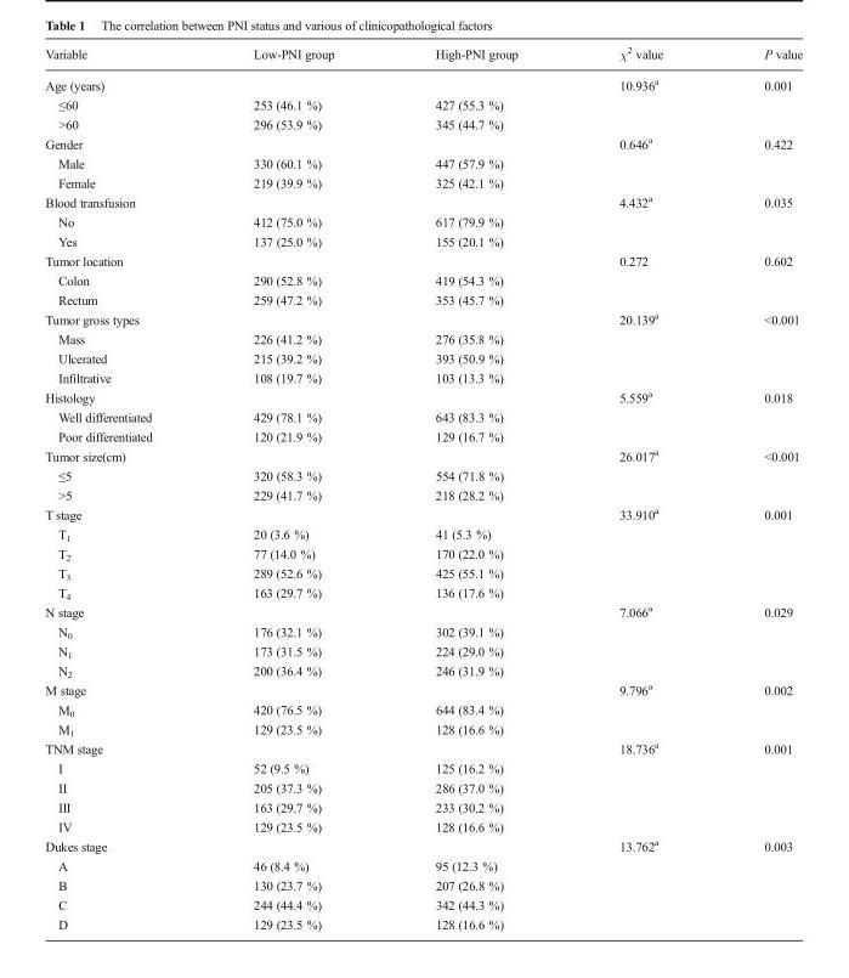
<table><thead><tr><td>Variable</td><td>Low-PNI group</td><td>High-PNI group</td><td>χ<sup>2</sup> value</td><td>P value</td></tr></thead><tbody><tr><td>Age (years)</td><td></td><td></td><td>10.936<sup>a</sup></td><td>0.001</td></tr><tr><td>≤60</td><td>253 (46.1 %)</td><td>427 (55.3 %)</td><td></td><td></td></tr><tr><td>&gt;60</td><td>296 (53.9 %)</td><td>345 (44.7 %)</td><td></td><td></td></tr><tr><td>Gender</td><td></td><td></td><td>0.646<sup>a</sup></td><td>0.422</td></tr><tr><td>Male</td><td>330 (60.1 %)</td><td>447 (57.9 %)</td><td></td><td></td></tr><tr><td>Female</td><td>219 (39.9 %)</td><td>325 (42.1 %)</td><td></td><td></td></tr><tr><td>Blood transfusion</td><td></td><td></td><td>4.432<sup>a</sup></td><td>0.035</td></tr><tr><td>No</td><td>412 (75.0 %)</td><td>617 (79.9 %)</td><td></td><td></td></tr><tr><td>Yes</td><td>137 (25.0 %)</td><td>155 (20.1 %)</td><td></td><td></td></tr><tr><td>Tumor location</td><td></td><td></td><td>0.272</td><td>0.602</td></tr><tr><td>Colon</td><td>290 (52.8 %)</td><td>419 (54.3 %)</td><td></td><td></td></tr><tr><td>Rectum</td><td>259 (47.2 %)</td><td>353 (45.7 %)</td><td></td><td></td></tr><tr><td>Tumor gross types</td><td></td><td></td><td>20.139<sup>a</sup></td><td>&lt;0.001</td></tr><tr><td>Mass</td><td>226 (41.2 %)</td><td>276 (35.8 %)</td><td></td><td></td></tr><tr><td>Ulcerated</td><td>215 (39.2 %)</td><td>393 (50.9 %)</td><td></td><td></td></tr><tr><td>Infiltrative</td><td>108 (19.7 %)</td><td>103 (13.3 %)</td><td></td><td></td></tr><tr><td>Histology</td><td></td><td></td><td>5.559<sup>a</sup></td><td>0.018</td></tr><tr><td>Well differentiated</td><td>429 (78.1 %)</td><td>643 (83.3 %)</td><td></td><td></td></tr><tr><td>Poor differentiated</td><td>120 (21.9 %)</td><td>129 (16.7 %)</td><td></td><td></td></tr><tr><td>Tumor size(cm)</td><td></td><td></td><td>26.017<sup>a</sup></td><td>&lt;0.001</td></tr><tr><td>≤5</td><td>320 (58.3 %)</td><td>554 (71.8 %)</td><td></td><td></td></tr><tr><td>&gt;5</td><td>229 (41.7 %)</td><td>218 (28.2 %)</td><td></td><td></td></tr><tr><td>T stage</td><td></td><td></td><td>33.910<sup>a</sup></td><td>0.001</td></tr><tr><td>T<sub>1</sub></td><td>20 (3.6 %)</td><td>41 (5.3 %)</td><td></td><td></td></tr><tr><td>T<sub>2</sub></td><td>77 (14.0 %)</td><td>170 (22.0 %)</td><td></td><td></td></tr><tr><td>T<sub>3</sub></td><td>289 (52.6 %)</td><td>425 (55.1 %)</td><td></td><td></td></tr><tr><td>T<sub>4</sub></td><td>163 (29.7 %)</td><td>136 (17.6 %)</td><td></td><td></td></tr><tr><td>N stage</td><td></td><td></td><td>7.066<sup>a</sup></td><td>0.029</td></tr><tr><td>N<sub>0</sub></td><td>176 (32.1 %)</td><td>302 (39.1 %)</td><td></td><td></td></tr><tr><td>N<sub>1</sub></td><td>173 (31.5 %)</td><td>224 (29.0 %)</td><td></td><td></td></tr><tr><td>N<sub>2</sub></td><td>200 (36.4 %)</td><td>246 (31.9 %)</td><td></td><td></td></tr><tr><td>M stage</td><td></td><td></td><td>9.796<sup>a</sup></td><td>0.002</td></tr><tr><td>M<sub>0</sub></td><td>420 (76.5 %)</td><td>644 (83.4 %)</td><td></td><td></td></tr><tr><td>M<sub>1</sub></td><td>129 (23.5 %)</td><td>128 (16.6 %)</td><td></td><td></td></tr><tr><td>TNM stage</td><td></td><td></td><td>18.736<sup>a</sup></td><td>0.001</td></tr><tr><td>I</td><td>52 (9.5 %)</td><td>125 (16.2 %)</td><td></td><td></td></tr><tr><td>II</td><td>205 (37.3 %)</td><td>286 (37.0 %)</td><td></td><td></td></tr><tr><td>III</td><td>163 (29.7 %)</td><td>233 (30.2 %)</td><td></td><td></td></tr><tr><td>IV</td><td>129 (23.5 %)</td><td>128 (16.6 %)</td><td></td><td></td></tr><tr><td>Dukes stage</td><td></td><td></td><td>13.762<sup>a</sup></td><td>0.003</td></tr><tr><td>A</td><td>46 (8.4 %)</td><td>95 (12.3 %)</td><td></td><td></td></tr><tr><td>B</td><td>130 (23.7 %)</td><td>207 (26.8 %)</td><td></td><td></td></tr><tr><td>C</td><td>244 (44.4 %)</td><td>342 (44.3 %)</td><td></td><td></td></tr><tr><td>D</td><td>129 (23.5 %)</td><td>128 (16.6 %)</td><td></td><td></td></tr></tbody></table>